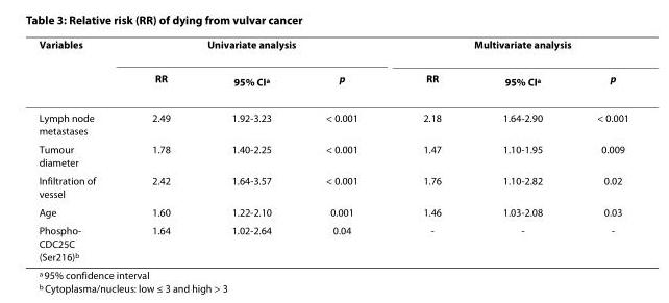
<table><thead><tr><td rowspan="2">Variables</td><td colspan="3">Univariate analysis</td><td colspan="3">Multivariate analysis</td></tr><tr><td>RR</td><td>95% CI<sup>a</sup></td><td>p</td><td>RR</td><td>95% CI<sup>a</sup></td><td>p</td></tr></thead><tbody><tr><td>Lymph node metastases</td><td>2.49</td><td>1.92-3.23</td><td>&lt; 0.001</td><td>2.18</td><td>1.64-2.90</td><td>&lt; 0.001</td></tr><tr><td>Tumour diameter</td><td>1.78</td><td>1.40-2.25</td><td>&lt; 0.001</td><td>1.47</td><td>1.10-1.95</td><td>0.009</td></tr><tr><td>Infiltration of vessel</td><td>2.42</td><td>1.64-3.57</td><td>&lt; 0.001</td><td>1.76</td><td>1.10-2.82</td><td>0.02</td></tr><tr><td>Age</td><td>1.60</td><td>1.22-2.10</td><td>0.001</td><td>1.46</td><td>1.03-2.08</td><td>0.03</td></tr><tr><td>Phospho- CDC25C (Ser216)<sup>b</sup></td><td>1.64</td><td>1.02-2.64</td><td>0.04</td><td>-</td><td>-</td><td>-</td></tr></tbody></table>